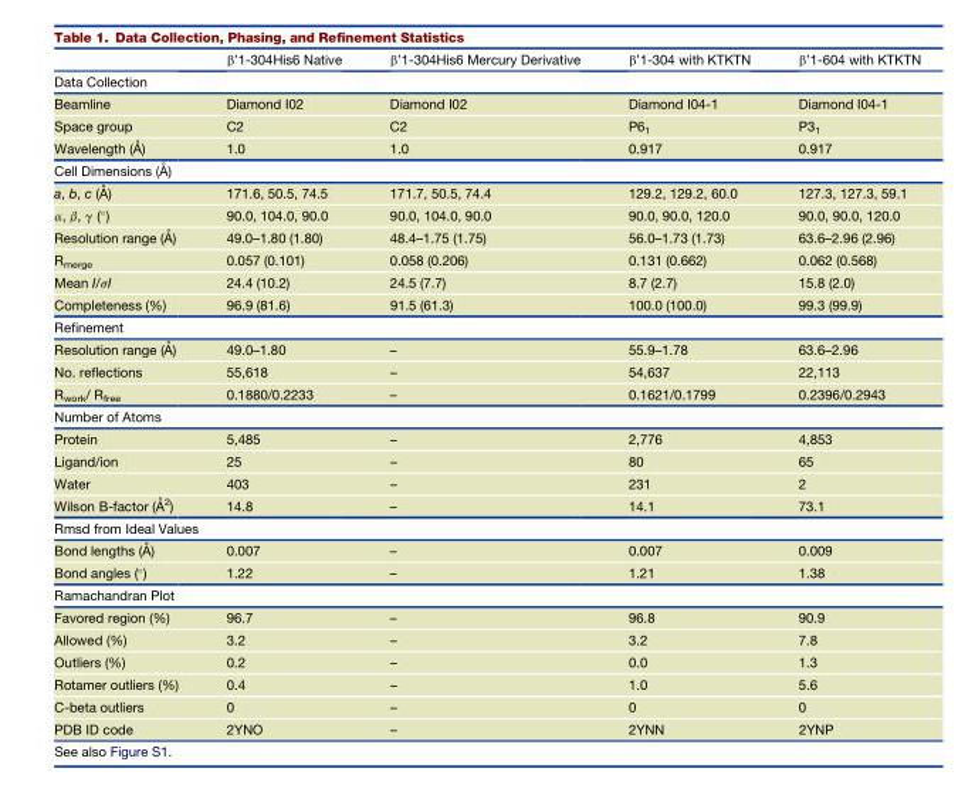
<table><thead><tr><td></td><td>β’1-304His6 Native</td><td>β’1-304His6 Mercury Derivative</td><td>β’1-304 with KTKTN</td><td>β’1-604 with KTKTN</td></tr></thead><tbody><tr><td colspan="5">Data Collection</td></tr><tr><td>Beamline</td><td>Diamond I02</td><td>Diamond I02</td><td>Diamond I04-1</td><td>Diamond I04-1</td></tr><tr><td>Space group</td><td>C2</td><td>C2</td><td>P61</td><td>P31</td></tr><tr><td>Wavelength (A˚ )</td><td>1.0</td><td>1.0</td><td>0.917</td><td>0.917</td></tr><tr><td colspan="5">Cell Dimensions (A˚ )</td></tr><tr><td>a, b, c (A˚ )</td><td>171.6, 50.5, 74.5</td><td>171.7, 50.5, 74.4</td><td>129.2, 129.2, 60.0</td><td>127.3, 127.3, 59.1</td></tr><tr><td>α, β, γ (°)</td><td>90.0, 104.0, 90.0</td><td>90.0, 104.0, 90.0</td><td>90.0, 90.0, 120.0</td><td>90.0, 90.0, 120.0</td></tr><tr><td>Resolution range (A˚ )</td><td>49.0–1.80 (1.80)</td><td>48.4–1.75 (1.75)</td><td>56.0–1.73 (1.73)</td><td>63.6–2.96 (2.96)</td></tr><tr><td>R<sub>merge</sub></td><td>0.057 (0.101)</td><td>0.058 (0.206)</td><td>0.131 (0.662)</td><td>0.062 (0.568)</td></tr><tr><td>Mean I/σI</td><td>24.4 (10.2)</td><td>24.5 (7.7)</td><td>8.7 (2.7)</td><td>15.8 (2.0)</td></tr><tr><td>Completeness (%)</td><td>96.9 (81.6)</td><td>91.5 (61.3)</td><td>100.0 (100.0)</td><td>99.3 (99.9)</td></tr><tr><td colspan="5">Refinement</td></tr><tr><td>Resolution range (A˚ )</td><td>49.0–1.80</td><td>–</td><td>55.9–1.78</td><td>63.6–2.96</td></tr><tr><td>No. reflections</td><td>55,618</td><td>–</td><td>54,637</td><td>22,113</td></tr><tr><td>R<sub>work</sub>/ R<sub>free</sub></td><td>0.1880/0.2233</td><td>–</td><td>0.1621/0.1799</td><td>0.2396/0.2943</td></tr><tr><td colspan="5">Number of Atoms</td></tr><tr><td>Protein</td><td>5,485</td><td>–</td><td>2,776</td><td>4,853</td></tr><tr><td>Ligand/ion</td><td>25</td><td>–</td><td>80</td><td>65</td></tr><tr><td>Water</td><td>403</td><td>–</td><td>231</td><td>2</td></tr><tr><td>Wilson B-factor (A˚ 2)</td><td>14.8</td><td>–</td><td>14.1</td><td>73.1</td></tr><tr><td colspan="5">Rmsd from Ideal Values</td></tr><tr><td>Bond lengths (A˚ )</td><td>0.007</td><td>–</td><td>0.007</td><td>0.009</td></tr><tr><td>Bond angles (°)</td><td>1.22</td><td>–</td><td>1.21</td><td>1.38</td></tr><tr><td colspan="5">Ramachandran Plot</td></tr><tr><td>Favored region (%)</td><td>96.7</td><td>–</td><td>96.8</td><td>90.9</td></tr><tr><td>Allowed (%)</td><td>3.2</td><td>–</td><td>3.2</td><td>7.8</td></tr><tr><td>Outliers (%)</td><td>0.2</td><td>–</td><td>0.0</td><td>1.3</td></tr><tr><td>Rotamer outliers (%)</td><td>0.4</td><td>–</td><td>1.0</td><td>5.6</td></tr><tr><td>C-beta outliers</td><td>0</td><td>–</td><td>0</td><td>0</td></tr><tr><td>PDB ID code</td><td>2YNO</td><td>–</td><td>2YNN</td><td>2YNP</td></tr></tbody></table>